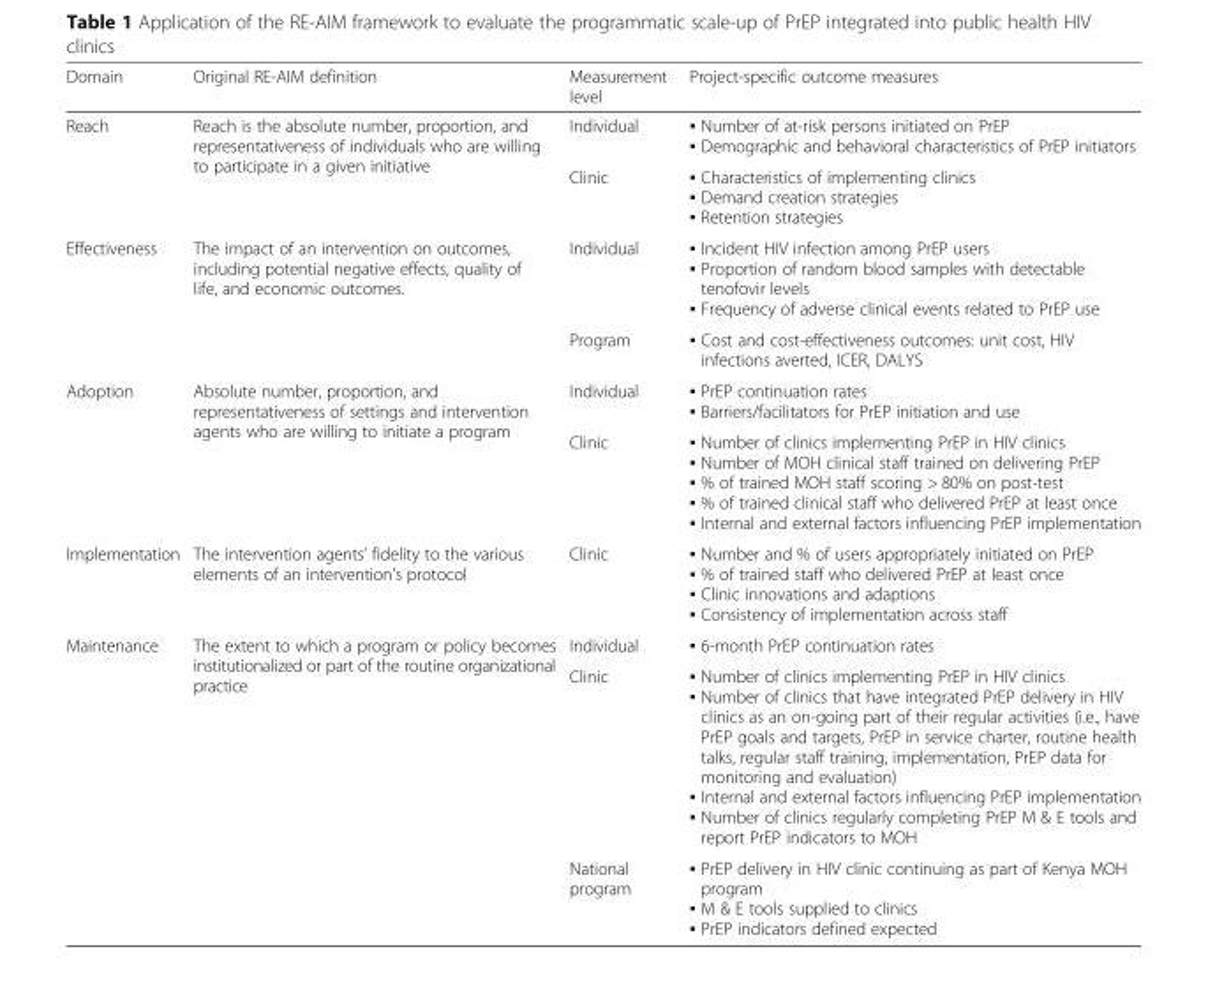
<table><thead><tr><td>Domain</td><td>Original RE-AIM definition</td><td>Measurement level</td><td>Project-specific outcome measures</td></tr></thead><tbody><tr><td rowspan="2">Reach</td><td rowspan="2">Reach is the absolute number, proportion, and representativeness of individuals who are willing to participate in a given initiative</td><td>Individual</td><td>▪ Number of at-risk persons initiated on PrEP ▪ Demographic and behavioral characteristics of PrEP initiators</td></tr><tr><td>Clinic</td><td>▪ Characteristics of implementing clinics ▪ Demand creation strategies ▪ Retention strategies</td></tr><tr><td rowspan="2">Effectiveness</td><td rowspan="2">The impact of an intervention on outcomes, including potential negative effects, quality of life, and economic outcomes.</td><td>Individual</td><td>▪ Incident HIV infection among PrEP users ▪ Proportion of random blood samples with detectable tenofovir levels ▪ Frequency of adverse clinical events related to PrEP use</td></tr><tr><td>Program</td><td>▪ Cost and cost-effectiveness outcomes: unit cost, HIV infections averted, ICER, DALYS</td></tr><tr><td rowspan="2">Adoption</td><td rowspan="2">Absolute number, proportion, and representativeness of settings and intervention agents who are willing to initiate a program</td><td>Individual</td><td>▪ PrEP continuation rates ▪ Barriers/facilitators for PrEP initiation and use</td></tr><tr><td>Clinic</td><td>▪ Number of clinics implementing PrEP in HIV clinics ▪ Number of MOH clinical staff trained on delivering PrEP ▪ % of trained MOH staff scoring &gt; 80% on post-test ▪ % of trained clinical staff who delivered PrEP at least once ▪ Internal and external factors influencing PrEP implementation</td></tr><tr><td>Implementation</td><td>The intervention agents’ fidelity to the various elements of an intervention’s protocol</td><td>Clinic</td><td>▪ Number and % of users appropriately initiated on PrEP ▪ % of trained staff who delivered PrEP at least once ▪ Clinic innovations and adaptions ▪ Consistency of implementation across staff</td></tr><tr><td rowspan="3">Maintenance</td><td rowspan="3">The extent to which a program or policy becomes institutionalized or part of the routine organizational practice</td><td>Individual</td><td>▪ 6-month PrEP continuation rates</td></tr><tr><td>Clinic</td><td>▪ Number of clinics implementing PrEP in HIV clinics ▪ Number of clinics that have integrated PrEP delivery in HIV clinics as an on-going part of their regular activities (i.e., have PrEP goals and targets, PrEP in service charter, routine health talks, regular staff training, implementation, PrEP data for monitoring and evaluation) ▪ Internal and external factors influencing PrEP implementation ▪ Number of clinics regularly completing PrEP M &amp; E tools and report PrEP indicators to MOH</td></tr><tr><td>National program</td><td>▪ PrEP delivery in HIV clinic continuing as part of Kenya MOH program ▪ M &amp; E tools supplied to clinics ▪ PrEP indicators defined expected</td></tr></tbody></table>